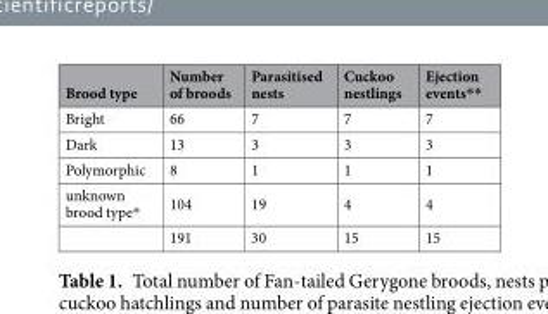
<table><thead><tr><td>Brood type</td><td>Number of broods</td><td>Parasitised nests</td><td>Cuckoo nestlings</td><td>Ejection events**</td></tr></thead><tbody><tr><td>Bright</td><td>66</td><td>7</td><td>7</td><td>7</td></tr><tr><td>Dark</td><td>13</td><td>3</td><td>3</td><td>3</td></tr><tr><td>Polymorphic</td><td>8</td><td>1</td><td>1</td><td>1</td></tr><tr><td rowspan="2">unknown brood type*</td><td>104</td><td>19</td><td>4</td><td>4</td></tr><tr><td>191</td><td>30</td><td>15</td><td>15</td></tr></tbody></table>